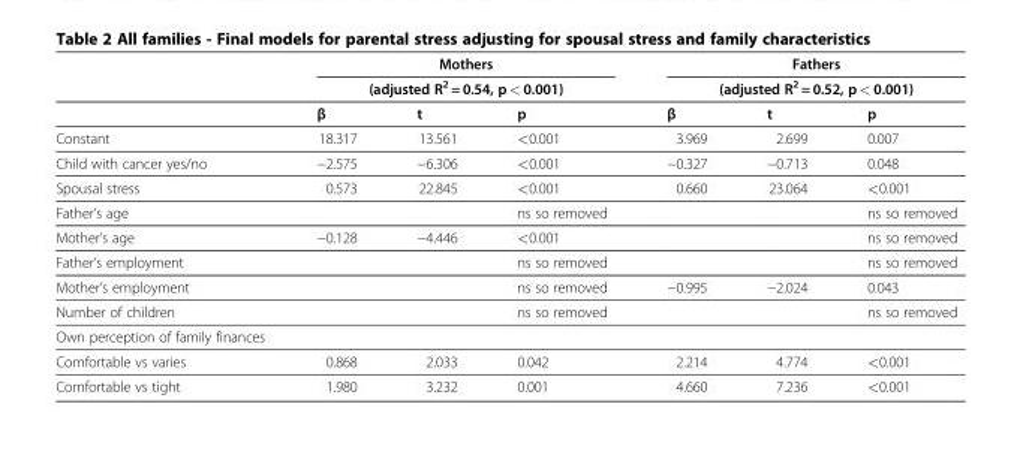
<table><thead><tr><td rowspan="3"></td><td rowspan="2" colspan="3">Mothers (adjusted R<sup>2</sup> = 0.54, p &lt; 0.001)</td><td rowspan="2" colspan="3">Fathers (adjusted R<sup>2</sup> = 0.52, p &lt; 0.001)</td></tr><tr></tr><tr><td>β</td><td>t</td><td>p</td><td>β</td><td>t</td><td>p</td></tr></thead><tbody><tr><td>Constant</td><td>18.317</td><td>13.561</td><td>&lt;0.001</td><td>3.969</td><td>2.699</td><td>0.007</td></tr><tr><td>Child with cancer yes/no</td><td>−2.575</td><td>−6.306</td><td>&lt;0.001</td><td>−0.327</td><td>−0.713</td><td>0.048</td></tr><tr><td>Spousal stress</td><td>0.573</td><td>22.845</td><td>&lt;0.001</td><td>0.660</td><td>23.064</td><td>&lt;0.001</td></tr><tr><td>Father’s age</td><td></td><td></td><td>ns so removed</td><td></td><td></td><td>ns so removed</td></tr><tr><td>Mother’s age</td><td>−0.128</td><td>−4.446</td><td>&lt;0.001</td><td></td><td></td><td>ns so removed</td></tr><tr><td>Father’s employment</td><td></td><td></td><td>ns so removed</td><td></td><td></td><td>ns so removed</td></tr><tr><td>Mother’s employment</td><td></td><td></td><td>ns so removed</td><td>−0.995</td><td>−2.024</td><td>0.043</td></tr><tr><td>Number of children</td><td></td><td></td><td>ns so removed</td><td></td><td></td><td>ns so removed</td></tr><tr><td colspan="7">Own perception of family finances</td></tr><tr><td>Comfortable vs varies</td><td>0.868</td><td>2.033</td><td>0.042</td><td>2.214</td><td>4.774</td><td>&lt;0.001</td></tr><tr><td>Comfortable vs tight</td><td>1.980</td><td>3.232</td><td>0.001</td><td>4.660</td><td>7.236</td><td>&lt;0.001</td></tr></tbody></table>